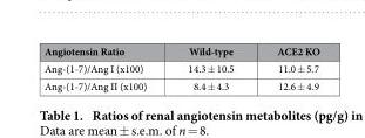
<table><thead><tr><td>Angiotensin Ratio</td><td>Wild-type</td><td>ACE2 KO</td></tr></thead><tbody><tr><td>Ang-(1-7)/Ang I (x100)</td><td>14.3 ± 10.5</td><td>11.0 ± 5.7</td></tr><tr><td>Ang-(1-7)/Ang II (x100)</td><td>8.4 ± 4.3</td><td>12.6 ± 4.9</td></tr></tbody></table>